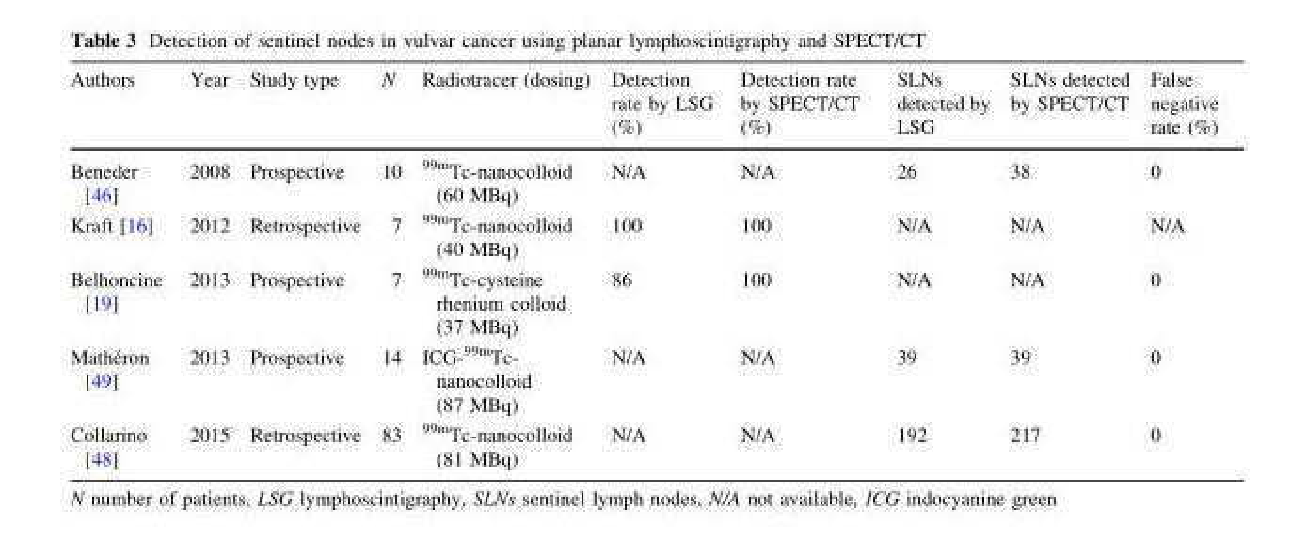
<table><thead><tr><td>Authors</td><td>Year</td><td>Study type</td><td>N</td><td>Radiotracer (dosing)</td><td>Detection rate by LSG (%)</td><td>Detection rate by SPECT/CT (%)</td><td>SLNs detected by LSG</td><td>SLNs detected by SPECT/CT</td><td>False negative rate (%)</td></tr></thead><tbody><tr><td>Beneder [46]</td><td>2008</td><td>Prospective</td><td>10</td><td><sup>99m</sup>Tc-nanocolloid (60 MBq)</td><td>N/A</td><td>N/A</td><td>26</td><td>38</td><td>0</td></tr><tr><td>Kraft [16]</td><td>2012</td><td>Retrospective</td><td>7</td><td><sup>99m</sup>Tc-nanocolloid (40 MBq)</td><td>100</td><td>100</td><td>N/A</td><td>N/A</td><td>N/A</td></tr><tr><td>Belhoncine [19]</td><td>2013</td><td>Prospective</td><td>7</td><td><sup>99m</sup>Tc-cysteine rhenium colloid (37 MBq)</td><td>86</td><td>100</td><td>N/A</td><td>N/A</td><td>0</td></tr><tr><td>Mathe´ron [49]</td><td>2013</td><td>Prospective</td><td>14</td><td>ICG-<sup>99m</sup>Tc- nanocolloid (87 MBq)</td><td>N/A</td><td>N/A</td><td>39</td><td>39</td><td>0</td></tr><tr><td>Collarino [48]</td><td>2015</td><td>Retrospective</td><td>83</td><td><sup>99m</sup>Tc-nanocolloid (81 MBq)</td><td>N/A</td><td>N/A</td><td>192</td><td>217</td><td>0</td></tr></tbody></table>